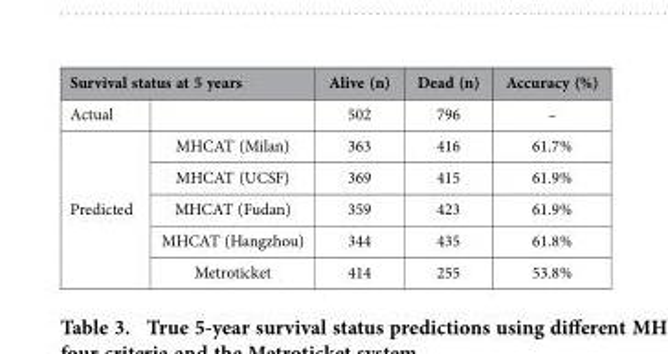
<table><thead><tr><td colspan="2">Survival status at 5 years</td><td rowspan="2">Alive (n) 502</td><td rowspan="2">Dead (n) 796</td><td rowspan="2">Accuracy (%) –</td></tr><tr><td>Actual</td><td></td></tr></thead><tbody><tr><td rowspan="5">Predicted</td><td>MHCAT (Milan)</td><td>363</td><td>416</td><td>61.7%</td></tr><tr><td>MHCAT (UCSF)</td><td>369</td><td>415</td><td>61.9%</td></tr><tr><td>MHCAT (Fudan)</td><td>359</td><td>423</td><td>61.9%</td></tr><tr><td>MHCAT (Hangzhou)</td><td>344</td><td>435</td><td>61.8%</td></tr><tr><td>Metroticket</td><td>414</td><td>255</td><td>53.8%</td></tr></tbody></table>